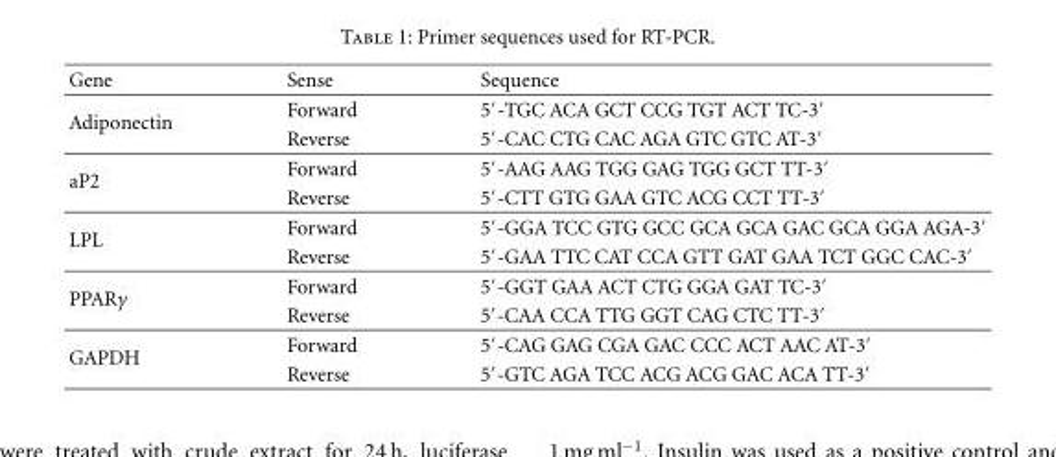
<table><thead><tr><td>Gene</td><td>Sense</td><td>Sequence</td></tr></thead><tbody><tr><td rowspan="2">Adiponectin</td><td>Forward</td><td>5′-TGC ACA GCT CCG TGT ACT TC-3′</td></tr><tr><td>Reverse</td><td>5′-CAC CTG CAC AGA GTC GTC AT-3′</td></tr><tr><td rowspan="2">aP2</td><td>Forward</td><td>5′-AAG AAG TGG GAG TGG GCT TT-3′</td></tr><tr><td>Reverse</td><td>5′-CTT GTG GAA GTC ACG CCT TT-3′</td></tr><tr><td rowspan="2">LPL</td><td>Forward</td><td>5′-GGA TCC GTG GCC GCA GCA GAC GCA GGA AGA-3′</td></tr><tr><td>Reverse</td><td>5′-GAA TTC CAT CCA GTT GAT GAA TCT GGC CAC-3′</td></tr><tr><td rowspan="2">PPARγ</td><td>Forward</td><td>5′-GGT GAA ACT CTG GGA GAT TC-3′</td></tr><tr><td>Reverse</td><td>5′-CAA CCA TTG GGT CAG CTC TT-3′</td></tr><tr><td rowspan="2">GAPDH</td><td>Forward</td><td>5′-CAG GAG CGA GAC CCC ACT AAC AT-3′</td></tr><tr><td>Reverse</td><td>5′-GTC AGA TCC ACG ACG GAC ACA TT-3′</td></tr></tbody></table>